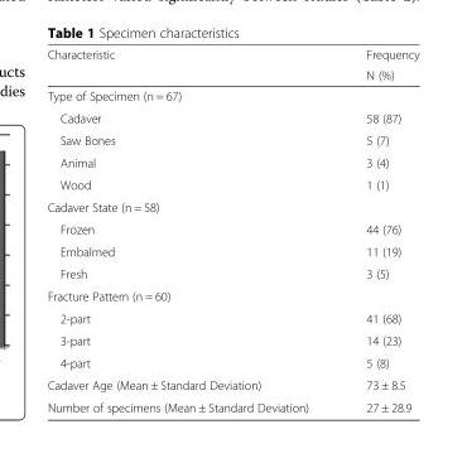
<table><thead><tr><td rowspan="2">Characteristic</td><td rowspan="2">Frequency N (%)</td></tr><tr></tr></thead><tbody><tr><td colspan="2">Type of Specimen (n = 67)</td></tr><tr><td>Cadaver</td><td>58 (87)</td></tr><tr><td>Saw Bones</td><td>5 (7)</td></tr><tr><td>Animal</td><td>3 (4)</td></tr><tr><td>Wood</td><td>1 (1)</td></tr><tr><td colspan="2">Cadaver State (n = 58)</td></tr><tr><td>Frozen</td><td>44 (76)</td></tr><tr><td>Embalmed</td><td>11 (19)</td></tr><tr><td>Fresh</td><td>3 (5)</td></tr><tr><td colspan="2">Fracture Pattern (n = 60)</td></tr><tr><td>2-part</td><td>41 (68)</td></tr><tr><td>3-part</td><td>14 (23)</td></tr><tr><td>4-part</td><td>5 (8)</td></tr><tr><td>Cadaver Age (Mean ± Standard Deviation)</td><td>73 ± 8.5</td></tr><tr><td>Number of specimens (Mean ± Standard Deviation)</td><td>27 ± 28.9</td></tr></tbody></table>